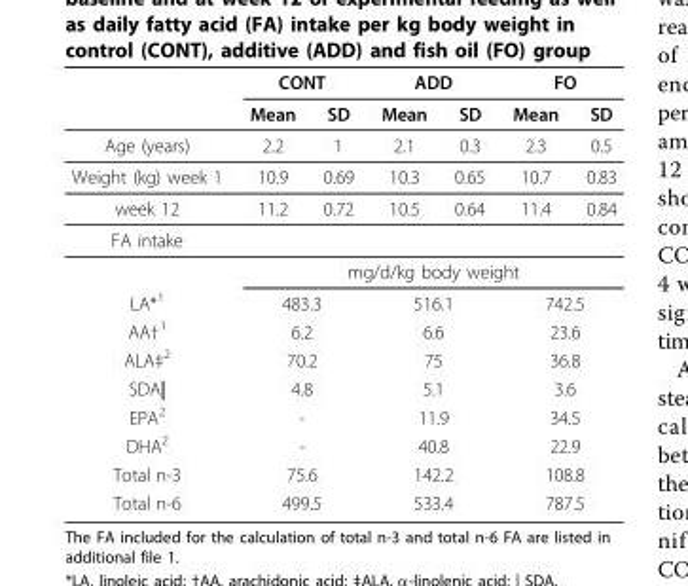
<table><thead><tr><td rowspan="2"></td><td colspan="2">CONT</td><td colspan="2">ADD</td><td colspan="2">FO</td></tr><tr><td>Mean</td><td>SD</td><td>Mean</td><td>SD</td><td>Mean</td><td>SD</td></tr></thead><tbody><tr><td>Age (years)</td><td>2.2</td><td>1</td><td>2.1</td><td>0.3</td><td>2.3</td><td>0.5</td></tr><tr><td>Weight (kg) week 1</td><td>10.9</td><td>0.69</td><td>10.3</td><td>0.65</td><td>10.7</td><td>0.83</td></tr><tr><td>week 12</td><td>11.2</td><td>0.72</td><td>10.5</td><td>0.64</td><td>11.4</td><td>0.84</td></tr><tr><td colspan="7">FA intake</td></tr><tr><td></td><td colspan="6">mg/d/kg body weight</td></tr><tr><td>LA*<sup>1</sup></td><td colspan="2">483.3</td><td colspan="2">516.1</td><td colspan="2">742.5</td></tr><tr><td>AA†<sup>1</sup></td><td colspan="2">6.2</td><td colspan="2">6.6</td><td colspan="2">23.6</td></tr><tr><td>ALA‡<sup>2</sup></td><td colspan="2">70.2</td><td colspan="2">75</td><td colspan="2">36.8</td></tr><tr><td>SDA|</td><td colspan="2">4.8</td><td colspan="2">5.1</td><td colspan="2">3.6</td></tr><tr><td>EPA<sup>2</sup></td><td colspan="2">-</td><td colspan="2">11.9</td><td colspan="2">34.5</td></tr><tr><td>DHA<sup>2</sup></td><td colspan="2">-</td><td colspan="2">40.8</td><td colspan="2">22.9</td></tr><tr><td>Total n-3</td><td colspan="2">75.6</td><td colspan="2">142.2</td><td colspan="2">108.8</td></tr><tr><td>Total n-6</td><td colspan="2">499.5</td><td colspan="2">533.4</td><td colspan="2">787.5</td></tr></tbody></table>